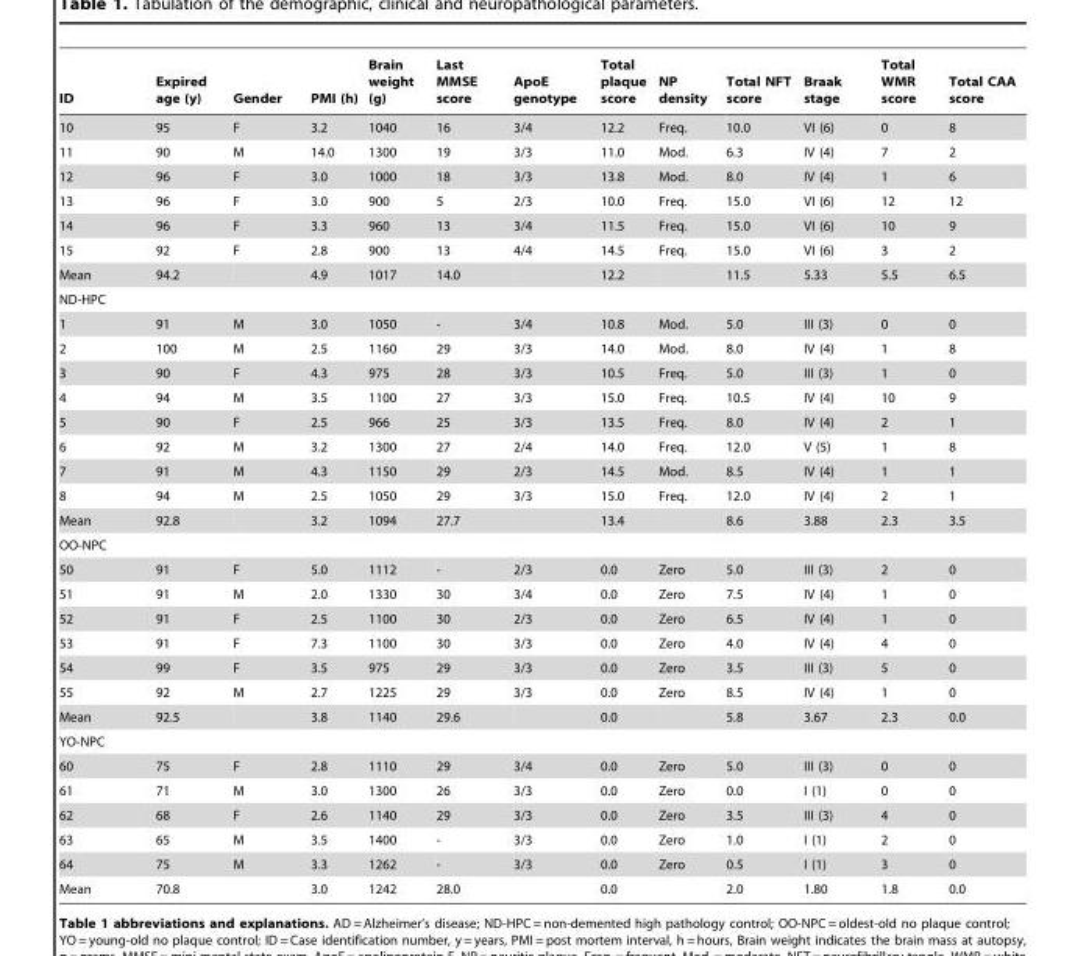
<table><thead><tr><td>ID</td><td>Expired age (y)</td><td>Gender</td><td>PMI (h)</td><td>Brain weight (g)</td><td>Last MMSE score</td><td>ApoE genotype</td><td>Total plaque score</td><td>NP density</td><td>Total NFT score</td><td>Braak stage</td><td>Total WMR score</td><td>Total CAA score</td></tr></thead><tbody><tr><td>10</td><td>95</td><td>F</td><td>3.2</td><td>1040</td><td>16</td><td>3/4</td><td>12.2</td><td>Freq.</td><td>10.0</td><td>VI (6)</td><td>0</td><td>8</td></tr><tr><td>11</td><td>90</td><td>M</td><td>14.0</td><td>1300</td><td>19</td><td>3/3</td><td>11.0</td><td>Mod.</td><td>6.3</td><td>IV (4)</td><td>7</td><td>2</td></tr><tr><td>12</td><td>96</td><td>F</td><td>3.0</td><td>1000</td><td>18</td><td>3/3</td><td>13.8</td><td>Mod.</td><td>8.0</td><td>IV (4)</td><td>1</td><td>6</td></tr><tr><td>13</td><td>96</td><td>F</td><td>3.0</td><td>900</td><td>5</td><td>2/3</td><td>10.0</td><td>Freq.</td><td>15.0</td><td>VI (6)</td><td>12</td><td>12</td></tr><tr><td>14</td><td>96</td><td>F</td><td>3.3</td><td>960</td><td>13</td><td>3/4</td><td>11.5</td><td>Freq.</td><td>15.0</td><td>VI (6)</td><td>10</td><td>9</td></tr><tr><td>15</td><td>92</td><td>F</td><td>2.8</td><td>900</td><td>13</td><td>4/4</td><td>14.5</td><td>Freq.</td><td>15.0</td><td>VI (6)</td><td>3</td><td>2</td></tr><tr><td>Mean</td><td>94.2</td><td></td><td>4.9</td><td>1017</td><td>14.0</td><td></td><td>12.2</td><td></td><td>11.5</td><td>5.33</td><td>5.5</td><td>6.5</td></tr><tr><td colspan="13">ND-HPC</td></tr><tr><td>1</td><td>91</td><td>M</td><td>3.0</td><td>1050</td><td>-</td><td>3/4</td><td>10.8</td><td>Mod.</td><td>5.0</td><td>III (3)</td><td>0</td><td>0</td></tr><tr><td>2</td><td>100</td><td>M</td><td>2.5</td><td>1160</td><td>29</td><td>3/3</td><td>14.0</td><td>Mod.</td><td>8.0</td><td>IV (4)</td><td>1</td><td>8</td></tr><tr><td>3</td><td>90</td><td>F</td><td>4.3</td><td>975</td><td>28</td><td>3/3</td><td>10.5</td><td>Freq.</td><td>5.0</td><td>III (3)</td><td>1</td><td>0</td></tr><tr><td>4</td><td>94</td><td>M</td><td>3.5</td><td>1100</td><td>27</td><td>3/3</td><td>15.0</td><td>Freq.</td><td>10.5</td><td>IV (4)</td><td>10</td><td>9</td></tr><tr><td>5</td><td>90</td><td>F</td><td>2.5</td><td>966</td><td>25</td><td>3/3</td><td>13.5</td><td>Freq.</td><td>8.0</td><td>IV (4)</td><td>2</td><td>1</td></tr><tr><td>6</td><td>92</td><td>M</td><td>3.2</td><td>1300</td><td>27</td><td>2/4</td><td>14.0</td><td>Freq.</td><td>12.0</td><td>V (5)</td><td>1</td><td>8</td></tr><tr><td>7</td><td>91</td><td>M</td><td>4.3</td><td>1150</td><td>29</td><td>2/3</td><td>14.5</td><td>Mod.</td><td>8.5</td><td>IV (4)</td><td>1</td><td>1</td></tr><tr><td>8</td><td>94</td><td>M</td><td>2.5</td><td>1050</td><td>29</td><td>3/3</td><td>15.0</td><td>Freq.</td><td>12.0</td><td>IV (4)</td><td>2</td><td>1</td></tr><tr><td>Mean</td><td>92.8</td><td></td><td>3.2</td><td>1094</td><td>27.7</td><td></td><td>13.4</td><td></td><td>8.6</td><td>3.88</td><td>2.3</td><td>3.5</td></tr><tr><td colspan="13">OO-NPC</td></tr><tr><td>50</td><td>91</td><td>F</td><td>5.0</td><td>1112</td><td>-</td><td>2/3</td><td>0.0</td><td>Zero</td><td>5.0</td><td>III (3)</td><td>2</td><td>0</td></tr><tr><td>51</td><td>91</td><td>M</td><td>2.0</td><td>1330</td><td>30</td><td>3/4</td><td>0.0</td><td>Zero</td><td>7.5</td><td>IV (4)</td><td>1</td><td>0</td></tr><tr><td>52</td><td>91</td><td>F</td><td>2.5</td><td>1100</td><td>30</td><td>2/3</td><td>0.0</td><td>Zero</td><td>6.5</td><td>IV (4)</td><td>1</td><td>0</td></tr><tr><td>53</td><td>91</td><td>F</td><td>7.3</td><td>1100</td><td>30</td><td>3/3</td><td>0.0</td><td>Zero</td><td>4.0</td><td>IV (4)</td><td>4</td><td>0</td></tr><tr><td>54</td><td>99</td><td>F</td><td>3.5</td><td>975</td><td>29</td><td>3/3</td><td>0.0</td><td>Zero</td><td>3.5</td><td>III (3)</td><td>5</td><td>0</td></tr><tr><td>55</td><td>92</td><td>M</td><td>2.7</td><td>1225</td><td>29</td><td>3/3</td><td>0.0</td><td>Zero</td><td>8.5</td><td>IV (4)</td><td>1</td><td>0</td></tr><tr><td>Mean</td><td>92.5</td><td></td><td>3.8</td><td>1140</td><td>29.6</td><td></td><td>0.0</td><td></td><td>5.8</td><td>3.67</td><td>2.3</td><td>0.0</td></tr><tr><td colspan="13">YO-NPC</td></tr><tr><td>60</td><td>75</td><td>F</td><td>2.8</td><td>1110</td><td>29</td><td>3/4</td><td>0.0</td><td>Zero</td><td>5.0</td><td>III (3)</td><td>0</td><td>0</td></tr><tr><td>61</td><td>71</td><td>M</td><td>3.0</td><td>1300</td><td>26</td><td>3/3</td><td>0.0</td><td>Zero</td><td>0.0</td><td>I (1)</td><td>0</td><td>0</td></tr><tr><td>62</td><td>68</td><td>F</td><td>2.6</td><td>1140</td><td>29</td><td>3/3</td><td>0.0</td><td>Zero</td><td>3.5</td><td>III (3)</td><td>4</td><td>0</td></tr><tr><td>63</td><td>65</td><td>M</td><td>3.5</td><td>1400</td><td>-</td><td>3/3</td><td>0.0</td><td>Zero</td><td>1.0</td><td>I (1)</td><td>2</td><td>0</td></tr><tr><td>64</td><td>75</td><td>M</td><td>3.3</td><td>1262</td><td>-</td><td>3/3</td><td>0.0</td><td>Zero</td><td>0.5</td><td>I (1)</td><td>3</td><td>0</td></tr><tr><td>Mean</td><td>70.8</td><td></td><td>3.0</td><td>1242</td><td>28.0</td><td></td><td>0.0</td><td></td><td>2.0</td><td>1.80</td><td>1.8</td><td>0.0</td></tr></tbody></table>